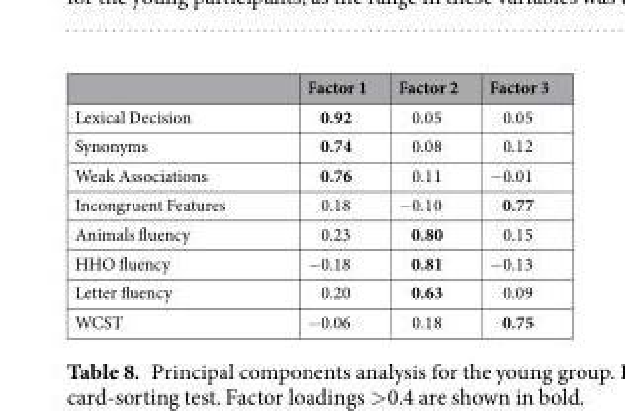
<table><thead><tr><td></td><td>Factor 1</td><td>Factor 2</td><td>Factor 3</td></tr></thead><tbody><tr><td>Lexical Decision</td><td>0.92</td><td>0.05</td><td>0.05</td></tr><tr><td>Synonyms</td><td>0.74</td><td>0.08</td><td>0.12</td></tr><tr><td>Weak Associations</td><td>0.76</td><td>0.11</td><td>−0.01</td></tr><tr><td>Incongruent Features</td><td>0.18</td><td>−0.10</td><td>0.77</td></tr><tr><td>Animals fluency</td><td>0.23</td><td>0.80</td><td>0.15</td></tr><tr><td>HHO fluency</td><td>−0.18</td><td>0.81</td><td>−0.13</td></tr><tr><td>Letter fluency</td><td>0.20</td><td>0.63</td><td>0.09</td></tr><tr><td>WCST</td><td>−0.06</td><td>0.18</td><td>0.75</td></tr></tbody></table>